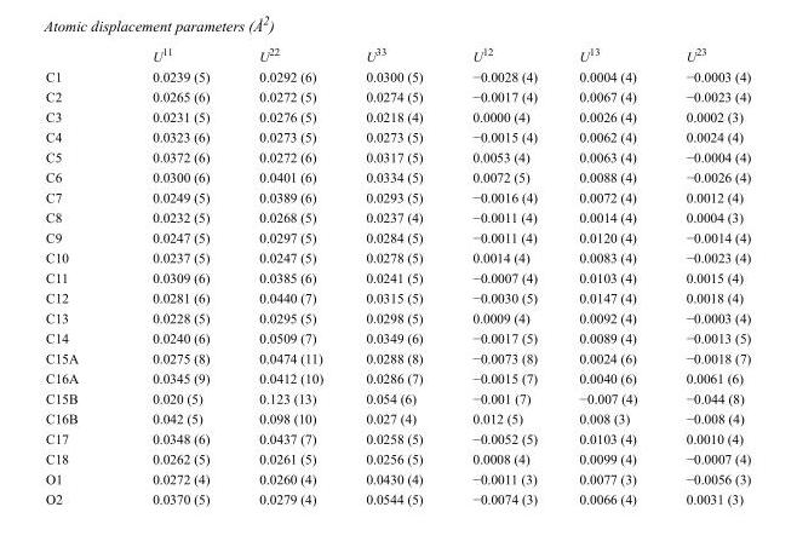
<table><thead><tr><td></td><td>U<sup>11</sup></td><td>U<sup>22</sup></td><td>U<sup>33</sup></td><td>U<sup>12</sup></td><td>U<sup>13</sup></td><td>U<sup>23</sup></td></tr></thead><tbody><tr><td>C1</td><td>0.0239 (5)</td><td>0.0292 (6)</td><td>0.0300 (5)</td><td>−0.0028 (4)</td><td>0.0004 (4)</td><td>−0.0003 (4)</td></tr><tr><td>C2</td><td>0.0265 (6)</td><td>0.0272 (5)</td><td>0.0274 (5)</td><td>−0.0017 (4)</td><td>0.0067 (4)</td><td>−0.0023 (4)</td></tr><tr><td>C3</td><td>0.0231 (5)</td><td>0.0276 (5)</td><td>0.0218 (4)</td><td>0.0000 (4)</td><td>0.0026 (4)</td><td>0.0002 (3)</td></tr><tr><td>C4</td><td>0.0323 (6)</td><td>0.0273 (5)</td><td>0.0273 (5)</td><td>−0.0015 (4)</td><td>0.0062 (4)</td><td>0.0024 (4)</td></tr><tr><td>C5</td><td>0.0372 (6)</td><td>0.0272 (6)</td><td>0.0317 (5)</td><td>0.0053 (4)</td><td>0.0063 (4)</td><td>−0.0004 (4)</td></tr><tr><td>C6</td><td>0.0300 (6)</td><td>0.0401 (6)</td><td>0.0334 (5)</td><td>0.0072 (5)</td><td>0.0088 (4)</td><td>−0.0026 (4)</td></tr><tr><td>C7</td><td>0.0249 (5)</td><td>0.0389 (6)</td><td>0.0293 (5)</td><td>−0.0016 (4)</td><td>0.0072 (4)</td><td>0.0012 (4)</td></tr><tr><td>C8</td><td>0.0232 (5)</td><td>0.0268 (5)</td><td>0.0237 (4)</td><td>−0.0011 (4)</td><td>0.0014 (4)</td><td>0.0004 (3)</td></tr><tr><td>C9</td><td>0.0247 (5)</td><td>0.0297 (5)</td><td>0.0284 (5)</td><td>−0.0011 (4)</td><td>0.0120 (4)</td><td>−0.0014 (4)</td></tr><tr><td>C10</td><td>0.0237 (5)</td><td>0.0247 (5)</td><td>0.0278 (5)</td><td>0.0014 (4)</td><td>0.0083 (4)</td><td>−0.0023 (4)</td></tr><tr><td>C11</td><td>0.0309 (6)</td><td>0.0385 (6)</td><td>0.0241 (5)</td><td>−0.0007 (4)</td><td>0.0103 (4)</td><td>0.0015 (4)</td></tr><tr><td>C12</td><td>0.0281 (6)</td><td>0.0440 (7)</td><td>0.0315 (5)</td><td>−0.0030 (5)</td><td>0.0147 (4)</td><td>0.0018 (4)</td></tr><tr><td>C13</td><td>0.0228 (5)</td><td>0.0295 (5)</td><td>0.0298 (5)</td><td>0.0009 (4)</td><td>0.0092 (4)</td><td>−0.0003 (4)</td></tr><tr><td>C14</td><td>0.0240 (6)</td><td>0.0509 (7)</td><td>0.0349 (6)</td><td>−0.0017 (5)</td><td>0.0089 (4)</td><td>−0.0013 (5)</td></tr><tr><td>C15A</td><td>0.0275 (8)</td><td>0.0474 (11)</td><td>0.0288 (8)</td><td>−0.0073 (8)</td><td>0.0024 (6)</td><td>−0.0018 (7)</td></tr><tr><td>C16A</td><td>0.0345 (9)</td><td>0.0412 (10)</td><td>0.0286 (7)</td><td>−0.0015 (7)</td><td>0.0040 (6)</td><td>0.0061 (6)</td></tr><tr><td>C15B</td><td>0.020 (5)</td><td>0.123 (13)</td><td>0.054 (6)</td><td>−0.001 (7)</td><td>−0.007 (4)</td><td>−0.044 (8)</td></tr><tr><td>C16B</td><td>0.042 (5)</td><td>0.098 (10)</td><td>0.027 (4)</td><td>0.012 (5)</td><td>0.008 (3)</td><td>−0.008 (4)</td></tr><tr><td>C17</td><td>0.0348 (6)</td><td>0.0437 (7)</td><td>0.0258 (5)</td><td>−0.0052 (5)</td><td>0.0103 (4)</td><td>0.0010 (4)</td></tr><tr><td>C18</td><td>0.0262 (5)</td><td>0.0261 (5)</td><td>0.0256 (5)</td><td>0.0008 (4)</td><td>0.0099 (4)</td><td>−0.0007 (4)</td></tr><tr><td>O1</td><td>0.0272 (4)</td><td>0.0260 (4)</td><td>0.0430 (4)</td><td>−0.0011 (3)</td><td>0.0077 (3)</td><td>−0.0056 (3)</td></tr><tr><td>O2</td><td>0.0370 (5)</td><td>0.0279 (4)</td><td>0.0544 (5)</td><td>−0.0074 (3)</td><td>0.0066 (4)</td><td>0.0031 (3)</td></tr></tbody></table>